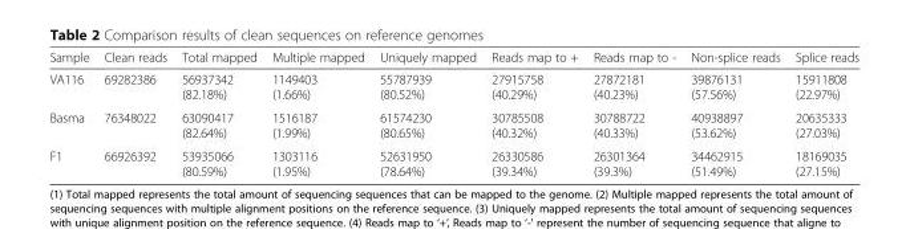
<table><thead><tr><td>Sample</td><td>Clean reads</td><td>Total mapped</td><td>Multiple mapped</td><td>Uniquely mapped</td><td>Reads map to +</td><td>Reads map to -</td><td>Non-splice reads</td><td>Splice reads</td></tr></thead><tbody><tr><td>VA116</td><td>69282386</td><td>56937342 (82.18%)</td><td>1149403 (1.66%)</td><td>55787939 (80.52%)</td><td>27915758 (40.29%)</td><td>27872181 (40.23%)</td><td>39876131 (57.56%)</td><td>15911808 (22.97%)</td></tr><tr><td>Basma</td><td>76348022</td><td>63090417 (82.64%)</td><td>1516187 (1.99%)</td><td>61574230 (80.65%)</td><td>30785508 (40.32%)</td><td>30788722 (40.33%)</td><td>40938897 (53.62%)</td><td>20635333 (27.03%)</td></tr><tr><td>F1</td><td>66926392</td><td>53935066 (80.59%)</td><td>1303116 (1.95%)</td><td>52631950 (78.64%)</td><td>26330586 (39.34%)</td><td>26301364 (39.3%)</td><td>34462915 (51.49%)</td><td>18169035 (27.15%)</td></tr></tbody></table>